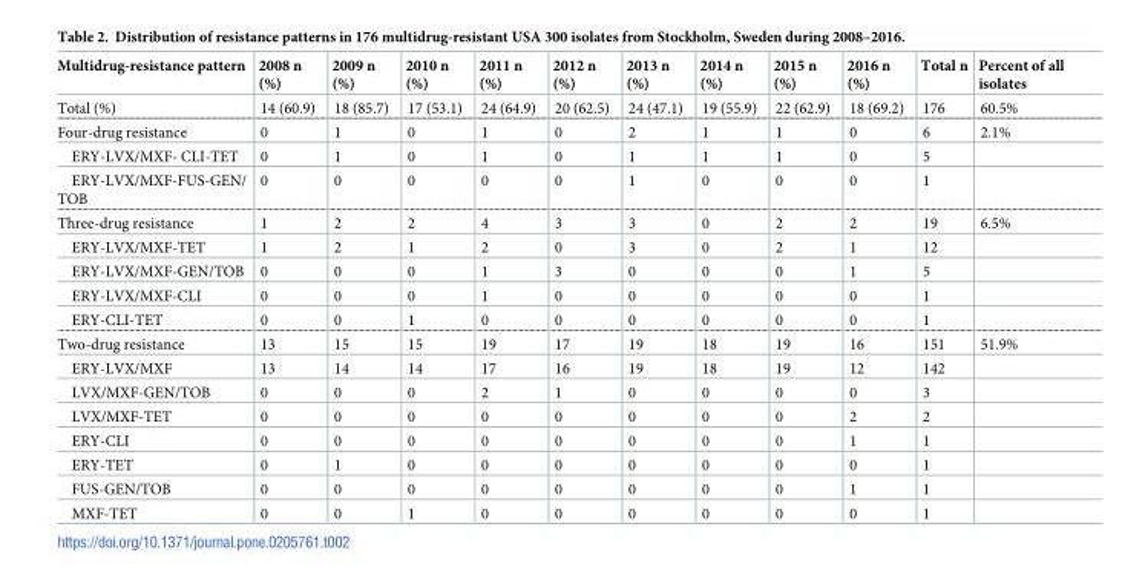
<table><thead><tr><td>Multidrug-resistance pattern</td><td>2008 n (%)</td><td>2009 n (%)</td><td>2010 n (%)</td><td>2011 n (%)</td><td>2012 n (%)</td><td>2013 n (%)</td><td>2014 n (%)</td><td>2015 n (%)</td><td>2016 n (%)</td><td>Total n</td><td>Percent of all isolates</td></tr></thead><tbody><tr><td>Total (%)</td><td>14 (60.9)</td><td>18 (85.7)</td><td>17 (53.1)</td><td>24 (64.9)</td><td>20 (62.5)</td><td>24 (47.1)</td><td>19 (55.9)</td><td>22 (62.9)</td><td>18 (69.2)</td><td>176</td><td>60.5%</td></tr><tr><td>Four-drug resistance</td><td>0</td><td>1</td><td>0</td><td>1</td><td>0</td><td>2</td><td>1</td><td>1</td><td>0</td><td>6</td><td>2.1%</td></tr><tr><td>ERY-LVX/MXF- CLI-TET</td><td>0</td><td>1</td><td>0</td><td>1</td><td>0</td><td>1</td><td>1</td><td>1</td><td>0</td><td>5</td><td></td></tr><tr><td>ERY-LVX/MXF-FUS-GEN/ TOB</td><td>0</td><td>0</td><td>0</td><td>0</td><td>0</td><td>1</td><td>0</td><td>0</td><td>0</td><td>1</td><td></td></tr><tr><td>Three-drug resistance</td><td>1</td><td>2</td><td>2</td><td>4</td><td>3</td><td>3</td><td>0</td><td>2</td><td>2</td><td>19</td><td>6.5%</td></tr><tr><td>ERY-LVX/MXF-TET</td><td>1</td><td>2</td><td>1</td><td>2</td><td>0</td><td>3</td><td>0</td><td>2</td><td>1</td><td>12</td><td></td></tr><tr><td>ERY-LVX/MXF-GEN/TOB</td><td>0</td><td>0</td><td>0</td><td>1</td><td>3</td><td>0</td><td>0</td><td>0</td><td>1</td><td>5</td><td></td></tr><tr><td>ERY-LVX/MXF-CLI</td><td>0</td><td>0</td><td>0</td><td>1</td><td>0</td><td>0</td><td>0</td><td>0</td><td>0</td><td>1</td><td></td></tr><tr><td>ERY-CLI-TET</td><td>0</td><td>0</td><td>1</td><td>0</td><td>0</td><td>0</td><td>0</td><td>0</td><td>0</td><td>1</td><td></td></tr><tr><td>Two-drug resistance</td><td>13</td><td>15</td><td>15</td><td>19</td><td>17</td><td>19</td><td>18</td><td>19</td><td>16</td><td>151</td><td>51.9%</td></tr><tr><td>ERY-LVX/MXF</td><td>13</td><td>14</td><td>14</td><td>17</td><td>16</td><td>19</td><td>18</td><td>19</td><td>12</td><td>142</td><td></td></tr><tr><td>LVX/MXF-GEN/TOB</td><td>0</td><td>0</td><td>0</td><td>2</td><td>1</td><td>0</td><td>0</td><td>0</td><td>0</td><td>3</td><td></td></tr><tr><td>LVX/MXF-TET</td><td>0</td><td>0</td><td>0</td><td>0</td><td>0</td><td>0</td><td>0</td><td>0</td><td>2</td><td>2</td><td></td></tr><tr><td>ERY-CLI</td><td>0</td><td>0</td><td>0</td><td>0</td><td>0</td><td>0</td><td>0</td><td>0</td><td>1</td><td>1</td><td></td></tr><tr><td>ERY-TET</td><td>0</td><td>1</td><td>0</td><td>0</td><td>0</td><td>0</td><td>0</td><td>0</td><td>0</td><td>1</td><td></td></tr><tr><td>FUS-GEN/TOB</td><td>0</td><td>0</td><td>0</td><td>0</td><td>0</td><td>0</td><td>0</td><td>0</td><td>1</td><td>1</td><td></td></tr><tr><td>MXF-TET</td><td>0</td><td>0</td><td>1</td><td>0</td><td>0</td><td>0</td><td>0</td><td>0</td><td>0</td><td>1</td><td></td></tr></tbody></table>